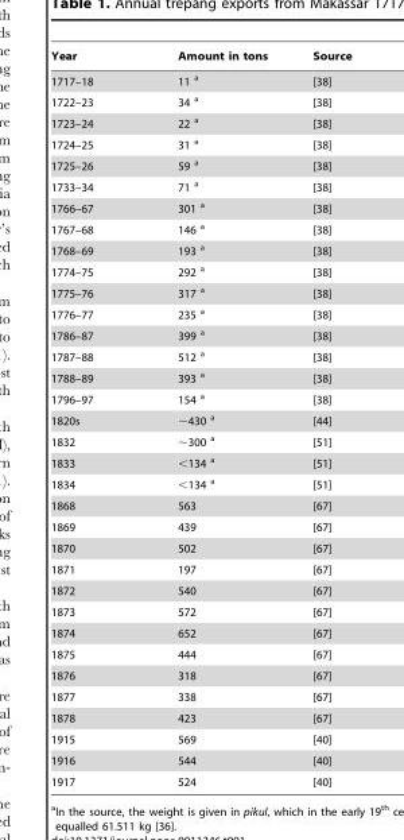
<table><thead><tr><td>Year</td><td>Amount in tons</td><td>Source</td></tr></thead><tbody><tr><td>1717–18</td><td>11 a</td><td>[38]</td></tr><tr><td>1722–23</td><td>34 a</td><td>[38]</td></tr><tr><td>1723–24</td><td>22 a</td><td>[38]</td></tr><tr><td>1724–25</td><td>31 a</td><td>[38]</td></tr><tr><td>1725–26</td><td>59 a</td><td>[38]</td></tr><tr><td>1733–34</td><td>71 a</td><td>[38]</td></tr><tr><td>1766–67</td><td>301 a</td><td>[38]</td></tr><tr><td>1767–68</td><td>146 a</td><td>[38]</td></tr><tr><td>1768–69</td><td>193 a</td><td>[38]</td></tr><tr><td>1774–75</td><td>292 a</td><td>[38]</td></tr><tr><td>1775–76</td><td>317 a</td><td>[38]</td></tr><tr><td>1776–77</td><td>235 a</td><td>[38]</td></tr><tr><td>1786–87</td><td>399 a</td><td>[38]</td></tr><tr><td>1787–88</td><td>512 a</td><td>[38]</td></tr><tr><td>1788–89</td><td>393 a</td><td>[38]</td></tr><tr><td>1796–97</td><td>154 a</td><td>[38]</td></tr><tr><td>1820s</td><td>∼430 a</td><td>[44]</td></tr><tr><td>1832</td><td>∼300 a</td><td>[51]</td></tr><tr><td>1833</td><td>&lt;134 a</td><td>[51]</td></tr><tr><td>1834</td><td>&lt;134 a</td><td>[51]</td></tr><tr><td>1868</td><td>563</td><td>[67]</td></tr><tr><td>1869</td><td>439</td><td>[67]</td></tr><tr><td>1870</td><td>502</td><td>[67]</td></tr><tr><td>1871</td><td>197</td><td>[67]</td></tr><tr><td>1872</td><td>540</td><td>[67]</td></tr><tr><td>1873</td><td>572</td><td>[67]</td></tr><tr><td>1874</td><td>652</td><td>[67]</td></tr><tr><td>1875</td><td>444</td><td>[67]</td></tr><tr><td>1876</td><td>318</td><td>[67]</td></tr><tr><td>1877</td><td>338</td><td>[67]</td></tr><tr><td>1878</td><td>423</td><td>[67]</td></tr><tr><td>1915</td><td>569</td><td>[40]</td></tr><tr><td>1916</td><td>544</td><td>[40]</td></tr><tr><td>1917</td><td>524</td><td>[40]</td></tr></tbody></table>